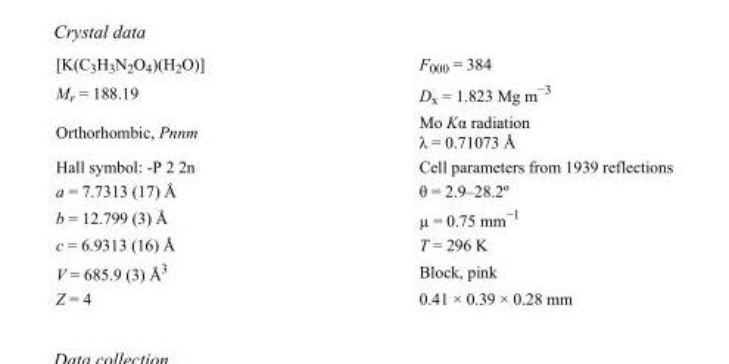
<table><tbody><tr><td>[K(C<sub>3</sub>H<sub>3</sub>N<sub>2</sub>O<sub>4</sub>)(H<sub>2</sub>O)]</td><td>F000 = 384</td></tr><tr><td>M<sub>r</sub> = 188.19</td><td>D<sub>x</sub> = 1.823 Mg m<sup>−3</sup></td></tr><tr><td>Orthorhombic, Pnnm</td><td>Mo Kα radiation λ = 0.71073 Å</td></tr><tr><td>Hall symbol: -P 2 2n</td><td>Cell parameters from 1939 reflections</td></tr><tr><td>a = 7.7313 (17) Å</td><td>θ = 2.9–28.2º</td></tr><tr><td>b = 12.799 (3) Å</td><td>µ = 0.75 mm<sup>−1</sup></td></tr><tr><td>c = 6.9313 (16) Å</td><td>T = 296 K</td></tr><tr><td>V = 685.9 (3) Å<sup>3</sup></td><td>Block, pink</td></tr><tr><td>Z = 4</td><td>0.41 × 0.39 × 0.28 mm</td></tr></tbody></table>